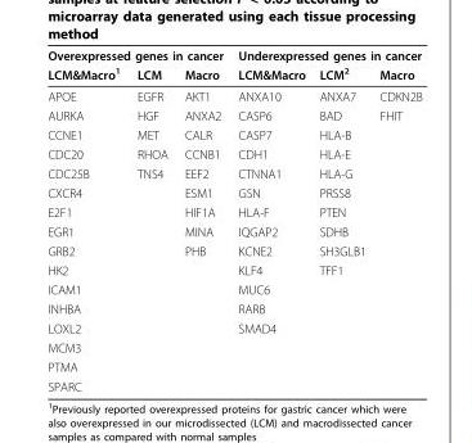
<table><thead><tr><td colspan="3">Overexpressed genes in cancer</td><td colspan="3">Underexpressed genes in cancer</td></tr><tr><td>LCM&amp;Macro<sup>1</sup></td><td>LCM</td><td>Macro</td><td>LCM&amp;Macro</td><td>LCM<sup>2</sup></td><td>Macro</td></tr></thead><tbody><tr><td>APOE</td><td>EGFR</td><td>AKT1</td><td>ANXA10</td><td>ANXA7</td><td>CDKN2B</td></tr><tr><td>AURKA</td><td>HGF</td><td>ANXA2</td><td>CASP6</td><td>BAD</td><td>FHIT</td></tr><tr><td>CCNE1</td><td>MET</td><td>CALR</td><td>CASP7</td><td>HLA-B</td><td></td></tr><tr><td>CDC20</td><td>RHOA</td><td>CCNB1</td><td>CDH1</td><td>HLA-E</td><td></td></tr><tr><td>CDC25B</td><td>TNS4</td><td>EEF2</td><td>CTNNA1</td><td>HLA-G</td><td></td></tr><tr><td>CXCR4</td><td></td><td>ESM1</td><td>GSN</td><td>PRSS8</td><td></td></tr><tr><td>E2F1</td><td></td><td>HIF1A</td><td>HLA-F</td><td>PTEN</td><td></td></tr><tr><td>EGR1</td><td></td><td>MINA</td><td>IQGAP2</td><td>SDHB</td><td></td></tr><tr><td>GRB2</td><td></td><td>PHB</td><td>KCNE2</td><td>SH3GLB1</td><td></td></tr><tr><td>HK2</td><td></td><td></td><td>KLF4</td><td>TFF1</td><td></td></tr><tr><td>ICAM1</td><td></td><td></td><td>MUC6</td><td></td><td></td></tr><tr><td>INHBA</td><td></td><td></td><td>RARB</td><td></td><td></td></tr><tr><td>LOXL2</td><td></td><td></td><td>SMAD4</td><td></td><td></td></tr><tr><td colspan="6">MCM3</td></tr><tr><td colspan="6">PTMA</td></tr><tr><td>SPARC</td><td></td><td></td><td></td><td></td><td></td></tr></tbody></table>